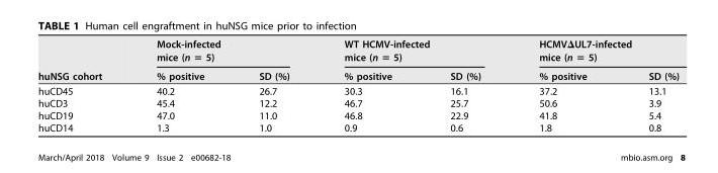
<table><thead><tr><td rowspan="2">huNSG cohort</td><td colspan="2">Mock-infected mice (n = 5)</td><td colspan="2">WT HCMV-infected mice (n = 5)</td><td colspan="2">HCMVΔUL7-infected mice (n = 5)</td></tr><tr><td>% positive</td><td>SD (%)</td><td>% positive</td><td>SD (%)</td><td>% positive</td><td>SD (%)</td></tr></thead><tbody><tr><td>huCD45</td><td>40.2</td><td>26.7</td><td>30.3</td><td>16.1</td><td>37.2</td><td>13.1</td></tr><tr><td>huCD3</td><td>45.4</td><td>12.2</td><td>46.7</td><td>25.7</td><td>50.6</td><td>3.9</td></tr><tr><td>huCD19</td><td>47.0</td><td>11.0</td><td>46.8</td><td>22.9</td><td>41.8</td><td>5.4</td></tr><tr><td>huCD14</td><td>1.3</td><td>1.0</td><td>0.9</td><td>0.6</td><td>1.8</td><td>0.8</td></tr></tbody></table>